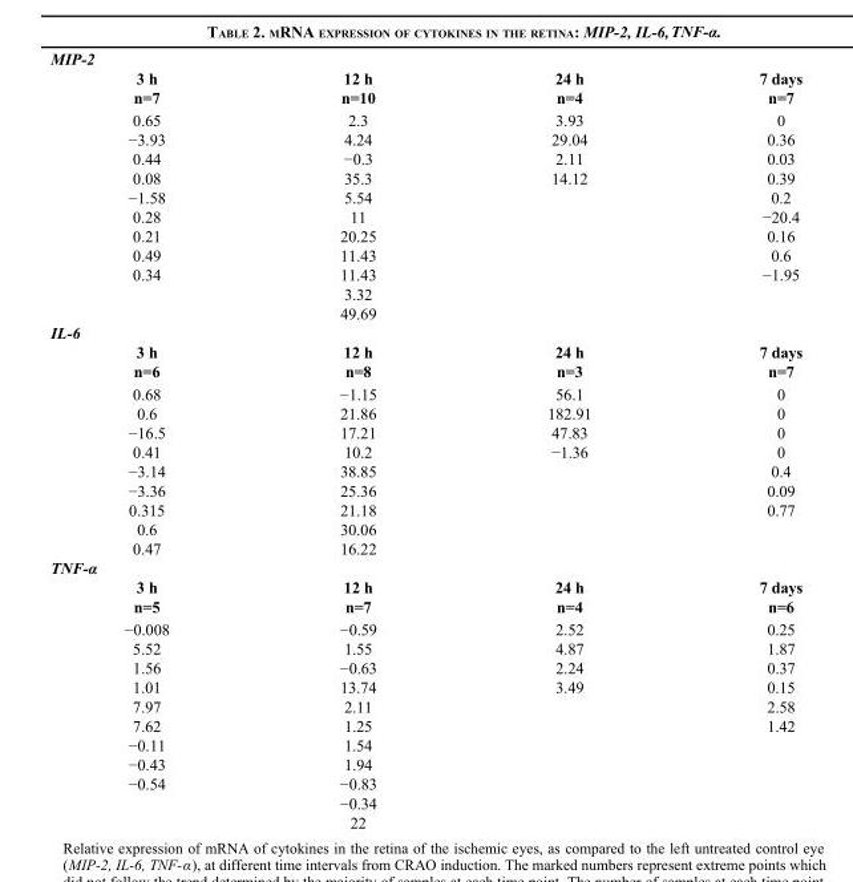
<table><thead><tr><td colspan="4">MIP-2</td></tr><tr><td>3 h</td><td>12 h</td><td>24 h</td><td>7 days</td></tr></thead><tbody><tr><td>n=7</td><td>n=10</td><td>n=4</td><td>n=7</td></tr><tr><td>0.65</td><td>2.3</td><td>3.93</td><td>0</td></tr><tr><td>−3.93</td><td>4.24</td><td>29.04</td><td>0.36</td></tr><tr><td>0.44</td><td>−0.3</td><td>2.11</td><td>0.03</td></tr><tr><td>0.08</td><td>35.3</td><td>14.12</td><td>0.39</td></tr><tr><td>−1.58</td><td>5.54</td><td></td><td>0.2</td></tr><tr><td>0.28</td><td>11</td><td></td><td>−20.4</td></tr><tr><td>0.21</td><td>20.25</td><td></td><td>0.16</td></tr><tr><td>0.49</td><td>11.43</td><td></td><td>0.6</td></tr><tr><td rowspan="3">0.34</td><td>11.43</td><td></td><td>−1.95</td></tr><tr><td>3.32</td><td></td><td></td></tr><tr><td>49.69</td><td></td><td></td></tr><tr><td colspan="4">IL-6</td></tr><tr><td>3 h</td><td>12 h</td><td>24 h</td><td>7 days</td></tr><tr><td>n=6</td><td>n=8</td><td>n=3</td><td>n=7</td></tr><tr><td>0.68</td><td>−1.15</td><td>56.1</td><td>0</td></tr><tr><td>0.6</td><td>21.86</td><td>182.91</td><td>0</td></tr><tr><td>−16.5</td><td>17.21</td><td>47.83</td><td>0</td></tr><tr><td>0.41</td><td>10.2</td><td>−1.36</td><td>0</td></tr><tr><td>−3.14</td><td>38.85</td><td></td><td>0.4</td></tr><tr><td>−3.36</td><td>25.36</td><td></td><td>0.09</td></tr><tr><td>0.315</td><td>21.18</td><td></td><td>0.77</td></tr><tr><td>0.6</td><td>30.06</td><td></td><td></td></tr><tr><td>0.47</td><td>16.22</td><td></td><td></td></tr><tr><td colspan="4">TNF-α</td></tr><tr><td>3 h</td><td>12 h</td><td>24 h</td><td>7 days</td></tr><tr><td>n=5</td><td>n=7</td><td>n=4</td><td>n=6</td></tr><tr><td>−0.008</td><td>−0.59</td><td>2.52</td><td>0.25</td></tr><tr><td>5.52</td><td>1.55</td><td>4.87</td><td>1.87</td></tr><tr><td>1.56</td><td>−0.63</td><td>2.24</td><td>0.37</td></tr><tr><td>1.01</td><td>13.74</td><td>3.49</td><td>0.15</td></tr><tr><td>7.97</td><td>2.11</td><td></td><td>2.58</td></tr><tr><td>7.62</td><td>1.25</td><td></td><td>1.42</td></tr><tr><td>−0.11</td><td>1.54</td><td></td><td></td></tr><tr><td>−0.43</td><td>1.94</td><td></td><td></td></tr><tr><td rowspan="3">−0.54</td><td>−0.83</td><td></td><td></td></tr><tr><td>−0.34</td><td></td><td></td></tr><tr><td>22</td><td></td><td></td></tr></tbody></table>